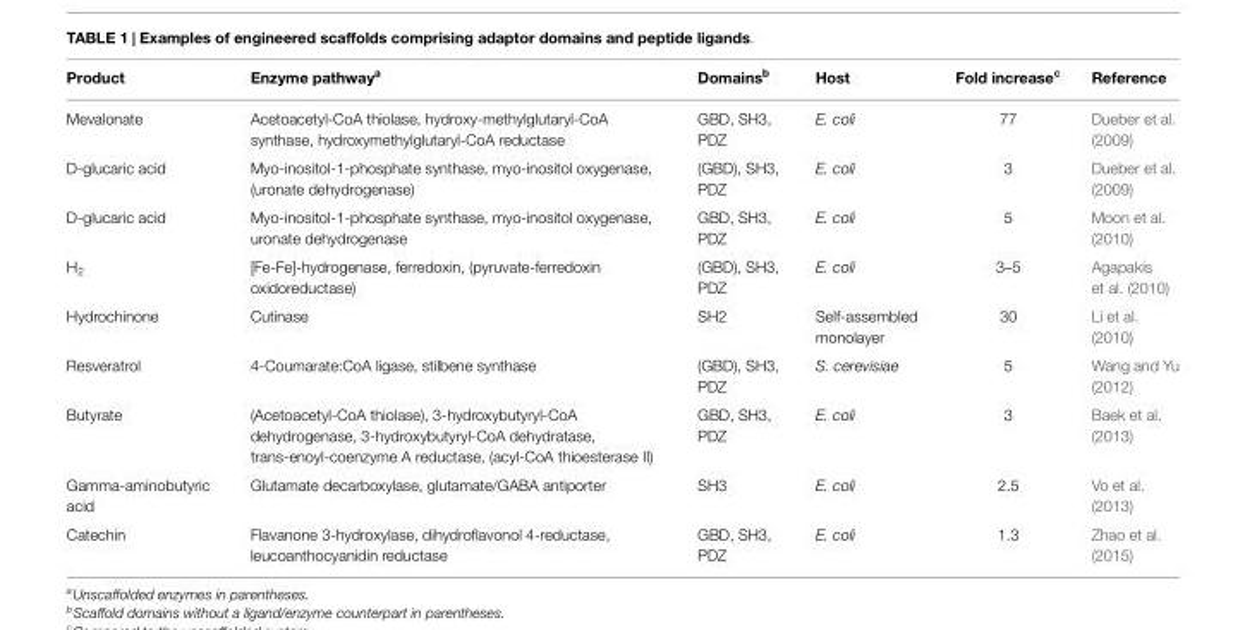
<table><thead><tr><td>Product</td><td>Enzyme pathway<sup>a</sup></td><td>Domains<sup>b</sup></td><td>Host</td><td>Fold increase<sup>c</sup></td><td>Reference</td></tr></thead><tbody><tr><td>Mevalonate</td><td>Acetoacetyl-CoA thiolase, hydroxy-methylglutaryl-CoA synthase, hydroxymethylglutaryl-CoA reductase</td><td>GBD, SH3, PDZ</td><td>E. coli</td><td>77</td><td>Dueber et al. (2009)</td></tr><tr><td>D-glucaric acid</td><td>Myo-inositol-1-phosphate synthase, myo-inositol oxygenase, (uronate dehydrogenase)</td><td>(GBD), SH3, PDZ</td><td>E. coli</td><td>3</td><td>Dueber et al. (2009)</td></tr><tr><td>D-glucaric acid</td><td>Myo-inositol-1-phosphate synthase, myo-inositol oxygenase, uronate dehydrogenase</td><td>GBD, SH3, PDZ</td><td>E. coli</td><td>5</td><td>Moon et al. (2010)</td></tr><tr><td>H<sub>2</sub></td><td>[Fe-Fe]-hydrogenase, ferredoxin, (pyruvate-ferredoxin oxidoreductase)</td><td>(GBD), SH3, PDZ</td><td>E. coli</td><td>3–5</td><td>Agapakis et al. (2010)</td></tr><tr><td>Hydrochinone</td><td>Cutinase</td><td>SH2</td><td>Self-assembled monolayer</td><td>30</td><td>Li et al. (2010)</td></tr><tr><td>Resveratrol</td><td>4-Coumarate:CoA ligase, stilbene synthase</td><td>(GBD), SH3, PDZ</td><td>S. cerevisiae</td><td>5</td><td>Wang and Yu (2012)</td></tr><tr><td>Butyrate</td><td>(Acetoacetyl-CoA thiolase), 3-hydroxybutyryl-CoA dehydrogenase, 3-hydroxybutyryl-CoA dehydratase, trans-enoyl-coenzyme A reductase, (acyl-CoA thioesterase II)</td><td>GBD, SH3, PDZ</td><td>E. coli</td><td>3</td><td>Baek et al. (2013)</td></tr><tr><td>Gamma-aminobutyric acid</td><td>Glutamate decarboxylase, glutamate/GABA antiporter</td><td>SH3</td><td>E. coli</td><td>2.5</td><td>Vo et al. (2013)</td></tr><tr><td>Catechin</td><td>Flavanone 3-hydroxylase, dihydroflavonol 4-reductase, leucoanthocyanidin reductase</td><td>GBD, SH3, PDZ</td><td>E. coli</td><td>1.3</td><td>Zhao et al. (2015)</td></tr></tbody></table>